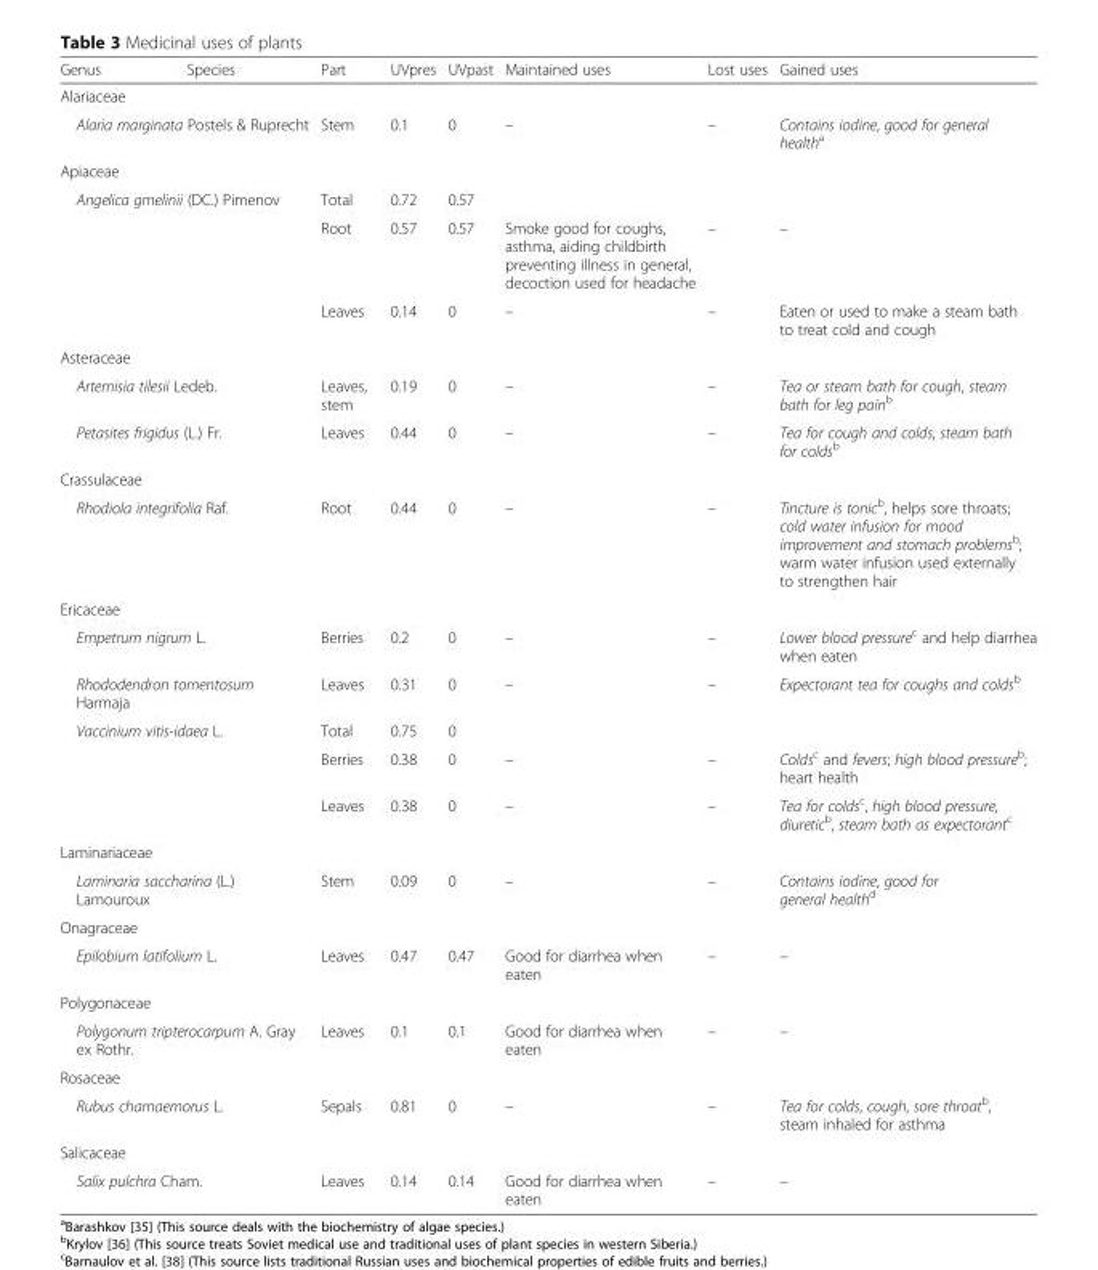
<table><thead><tr><td>Genus</td><td>Species</td><td>Part</td><td>UVpres</td><td>UVpast</td><td>Maintained uses</td><td>Lost uses</td><td>Gained uses</td></tr></thead><tbody><tr><td colspan="8">Alariaceae</td></tr><tr><td colspan="2">Alaria marginata Postels &amp; Ruprecht</td><td>Stem</td><td>0.1</td><td>0</td><td>–</td><td>–</td><td>Contains iodine, good for general health<sup>a</sup></td></tr><tr><td colspan="8">Apiaceae</td></tr><tr><td rowspan="3" colspan="2">Angelica gmelinii (DC.) Pimenov</td><td>Total</td><td>0.72</td><td>0.57</td><td></td><td></td><td></td></tr><tr><td>Root</td><td>0.57</td><td>0.57</td><td>Smoke good for coughs, asthma, aiding childbirth preventing illness in general, decoction used for headache</td><td>–</td><td>–</td></tr><tr><td>Leaves</td><td>0.14</td><td>0</td><td>–</td><td>–</td><td>Eaten or used to make a steam bath to treat cold and cough</td></tr><tr><td colspan="8">Asteraceae</td></tr><tr><td colspan="2">Artemisia tilesii Ledeb.</td><td>Leaves, stem</td><td>0.19</td><td>0</td><td>–</td><td>–</td><td>Tea or steam bath for cough, steam bath for leg pain<sup>b</sup></td></tr><tr><td colspan="2">Petasites frigidus (L.) Fr.</td><td>Leaves</td><td>0.44</td><td>0</td><td>–</td><td>–</td><td>Tea for cough and colds, steam bath for colds<sup>b</sup></td></tr><tr><td colspan="8">Crassulaceae</td></tr><tr><td colspan="2">Rhodiola integrifolia Raf.</td><td>Root</td><td>0.44</td><td>0</td><td>–</td><td>–</td><td>Tincture is tonic<sup>b</sup>, helps sore throats; cold water infusion for mood improvement and stomach problems<sup>b</sup>; warm water infusion used externally to strengthen hair</td></tr><tr><td colspan="8">Ericaceae</td></tr><tr><td colspan="2">Empetrum nigrum L.</td><td>Berries</td><td>0.2</td><td>0</td><td>–</td><td>–</td><td>Lower blood pressure<sup>c</sup> and help diarrhea when eaten</td></tr><tr><td colspan="2">Rhododendron tomentosum Harmaja</td><td>Leaves</td><td>0.31</td><td>0</td><td>–</td><td>–</td><td>Expectorant tea for coughs and colds<sup>b</sup></td></tr><tr><td rowspan="3" colspan="2">Vaccinium vitis-idaea L.</td><td>Total</td><td>0.75</td><td>0</td><td></td><td></td><td></td></tr><tr><td>Berries</td><td>0.38</td><td>0</td><td>–</td><td>–</td><td>Colds<sup>c</sup> and fevers; high blood pressure<sup>b</sup>; heart health</td></tr><tr><td>Leaves</td><td>0.38</td><td>0</td><td>–</td><td>–</td><td>Tea for colds<sup>c</sup>, high blood pressure, diuretic<sup>b</sup>, steam bath as expectorant<sup>c</sup></td></tr><tr><td colspan="8">Laminariaceae</td></tr><tr><td colspan="2">Laminaria saccharina (L.) Lamouroux</td><td>Stem</td><td>0.09</td><td>0</td><td>–</td><td>–</td><td>Contains iodine, good for general health<sup>d</sup></td></tr><tr><td colspan="8">Onagraceae</td></tr><tr><td colspan="2">Epilobium latifolium L.</td><td>Leaves</td><td>0.47</td><td>0.47</td><td>Good for diarrhea when eaten</td><td>–</td><td>–</td></tr><tr><td colspan="8">Polygonaceae</td></tr><tr><td colspan="2">Polygonum tripterocarpum A. Gray ex Rothr.</td><td>Leaves</td><td>0.1</td><td>0.1</td><td>Good for diarrhea when eaten</td><td>–</td><td>–</td></tr><tr><td colspan="8">Rosaceae</td></tr><tr><td colspan="2">Rubus chamaemorus L.</td><td>Sepals</td><td>0.81</td><td>0</td><td>–</td><td>–</td><td>Tea for colds, cough, sore throat<sup>b</sup>, steam inhaled for asthma</td></tr><tr><td colspan="8">Salicaceae</td></tr><tr><td colspan="2">Salix pulchra Cham.</td><td>Leaves</td><td>0.14</td><td>0.14</td><td>Good for diarrhea when eaten</td><td>–</td><td>–</td></tr></tbody></table>